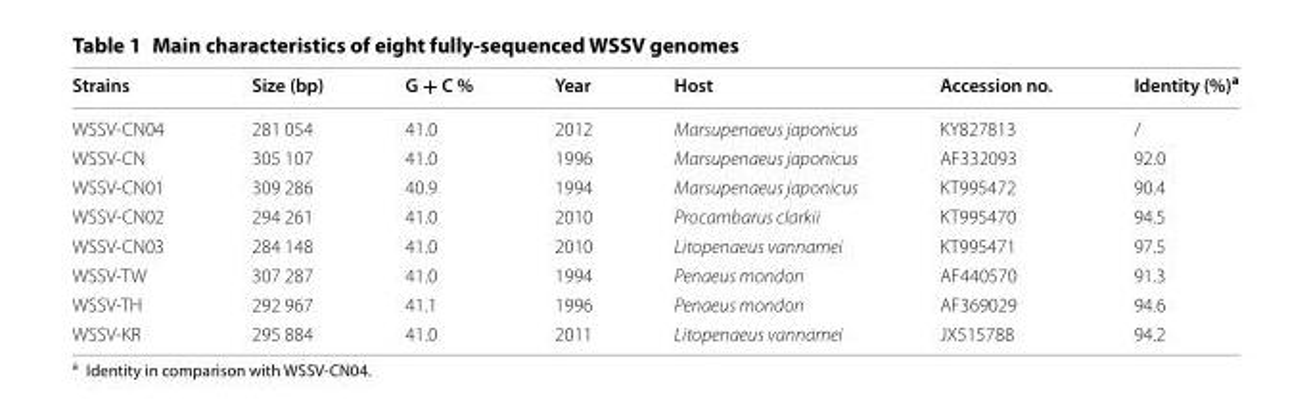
<table><thead><tr><td>Strains</td><td>Size (bp)</td><td>G + C %</td><td>Year</td><td>Host</td><td>Accession no.</td><td>Identity (%)<sup>a</sup></td></tr></thead><tbody><tr><td>WSSV-CN04</td><td>281 054</td><td>41.0</td><td>2012</td><td>Marsupenaeus japonicus</td><td>KY827813</td><td>/</td></tr><tr><td>WSSV-CN</td><td>305 107</td><td>41.0</td><td>1996</td><td>Marsupenaeus japonicus</td><td>AF332093</td><td>92.0</td></tr><tr><td>WSSV-CN01</td><td>309 286</td><td>40.9</td><td>1994</td><td>Marsupenaeus japonicus</td><td>KT995472</td><td>90.4</td></tr><tr><td>WSSV-CN02</td><td>294 261</td><td>41.0</td><td>2010</td><td>Procambarus clarkii</td><td>KT995470</td><td>94.5</td></tr><tr><td>WSSV-CN03</td><td>284 148</td><td>41.0</td><td>2010</td><td>Litopenaeus vannamei</td><td>KT995471</td><td>97.5</td></tr><tr><td>WSSV-TW</td><td>307 287</td><td>41.0</td><td>1994</td><td>Penaeus mondon</td><td>AF440570</td><td>91.3</td></tr><tr><td>WSSV-TH</td><td>292 967</td><td>41.1</td><td>1996</td><td>Penaeus mondon</td><td>AF369029</td><td>94.6</td></tr><tr><td>WSSV-KR</td><td>295 884</td><td>41.0</td><td>2011</td><td>Litopenaeus vannamei</td><td>JX515788</td><td>94.2</td></tr></tbody></table>